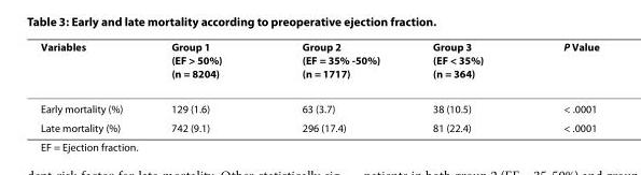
<table><thead><tr><td>Variables</td><td>Group 1 (EF &gt; 50%) (n = 8204)</td><td>Group 2 (EF = 35% -50%) (n = 1717)</td><td>Group 3 (EF &lt; 35%) (n = 364)</td><td>P Value</td></tr></thead><tbody><tr><td>Early mortality (%)</td><td>129 (1.6)</td><td>63 (3.7)</td><td>38 (10.5)</td><td>&lt; .0001</td></tr><tr><td>Late mortality (%)</td><td>742 (9.1)</td><td>296 (17.4)</td><td>81 (22.4)</td><td>&lt; .0001</td></tr></tbody></table>